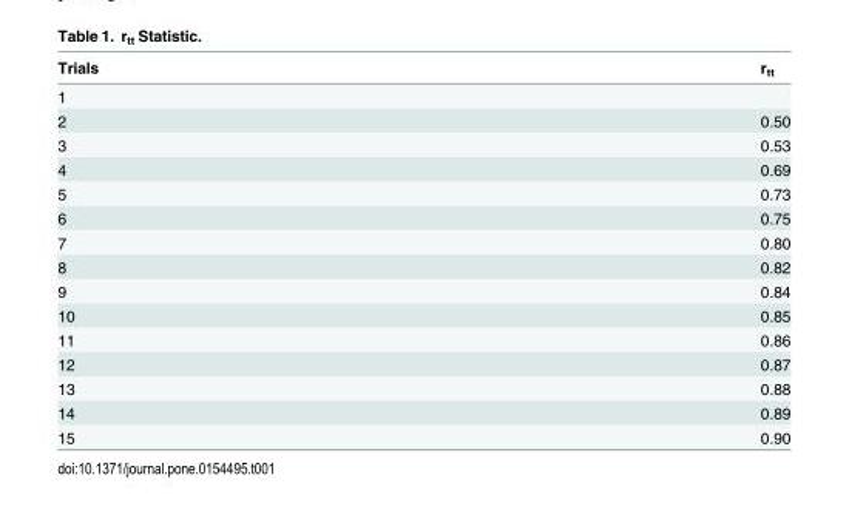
<table><thead><tr><td>Trials</td><td>r<sub>tt</sub></td></tr></thead><tbody><tr><td colspan="2">1</td></tr><tr><td>2</td><td>0.50</td></tr><tr><td>3</td><td>0.53</td></tr><tr><td>4</td><td>0.69</td></tr><tr><td>5</td><td>0.73</td></tr><tr><td>6</td><td>0.75</td></tr><tr><td>7</td><td>0.80</td></tr><tr><td>8</td><td>0.82</td></tr><tr><td>9</td><td>0.84</td></tr><tr><td>10</td><td>0.85</td></tr><tr><td>11</td><td>0.86</td></tr><tr><td>12</td><td>0.87</td></tr><tr><td>13</td><td>0.88</td></tr><tr><td>14</td><td>0.89</td></tr><tr><td>15</td><td>0.90</td></tr></tbody></table>